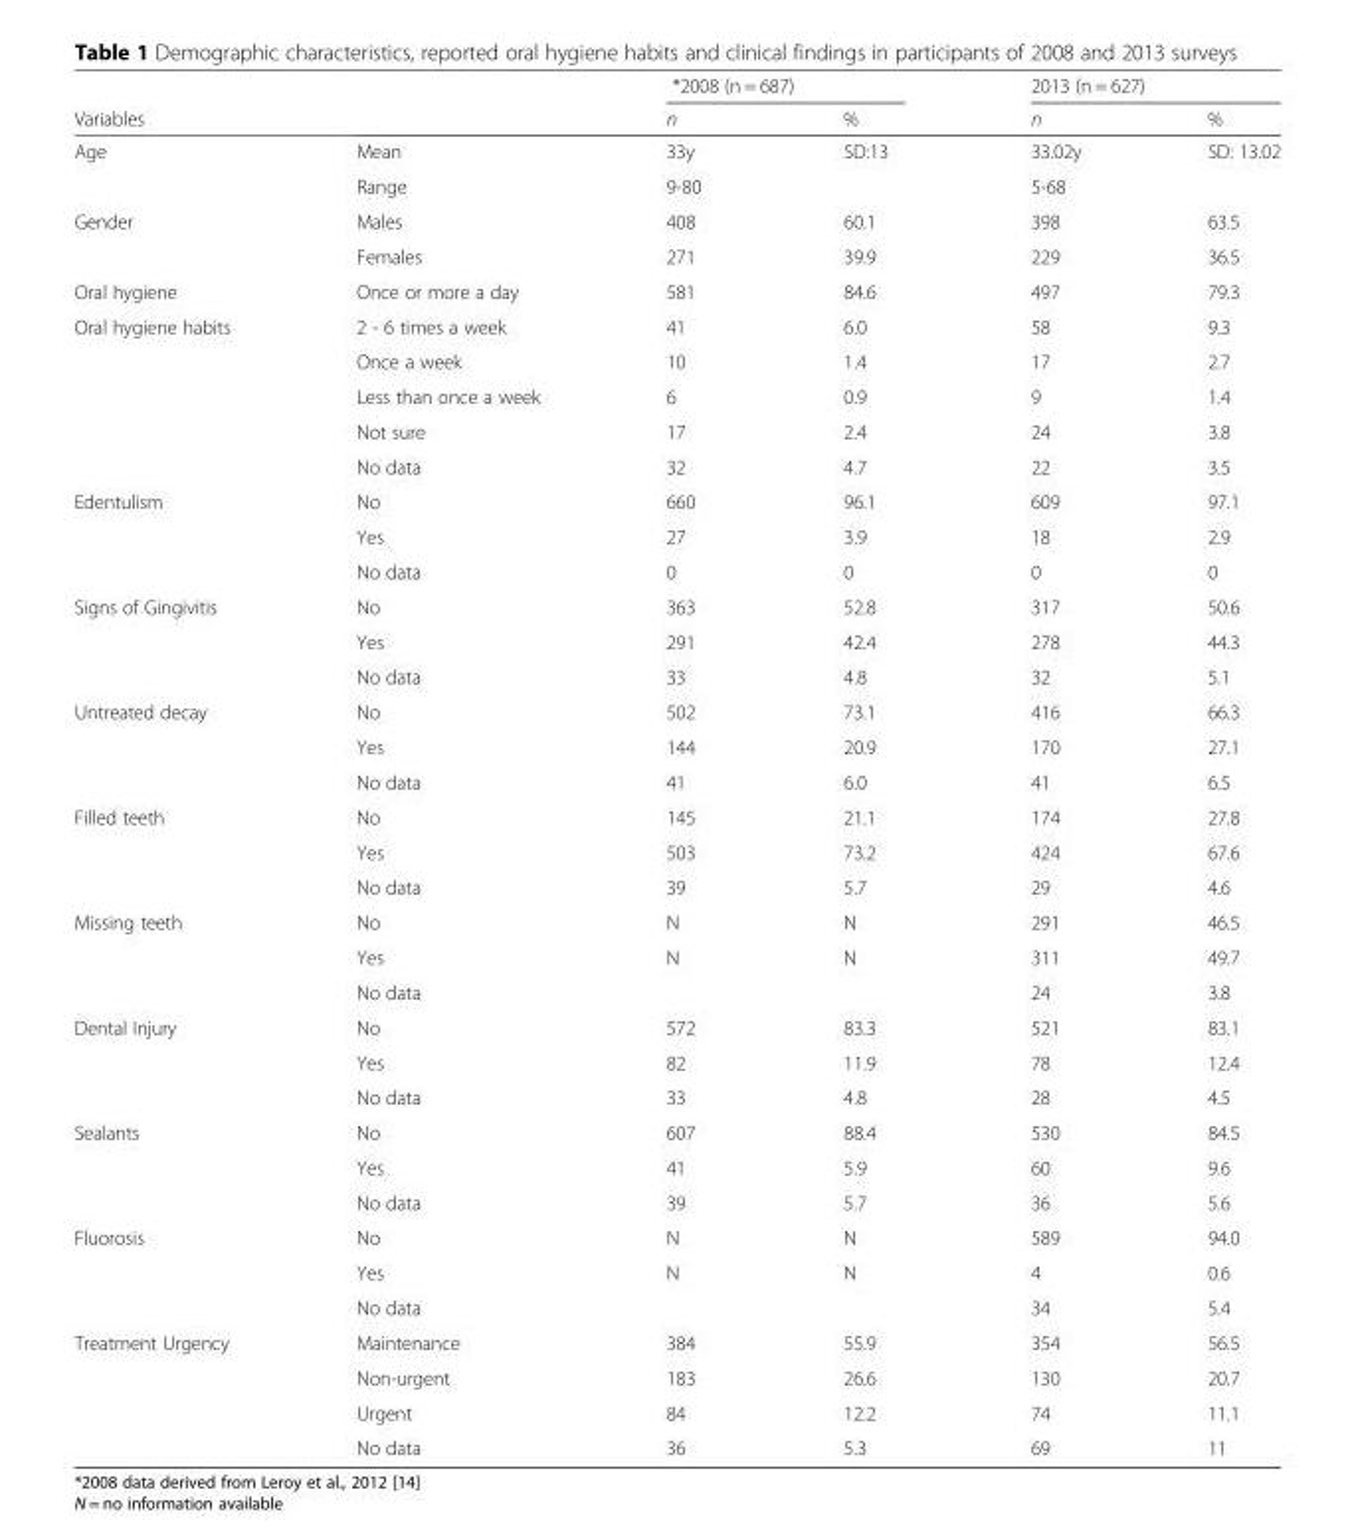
<table><thead><tr><td rowspan="2">Variables</td><td rowspan="2"></td><td colspan="2">*2008 (n = 687)</td><td colspan="2">2013 (n = 627)</td></tr><tr><td>n</td><td>%</td><td>n</td><td>%</td></tr></thead><tbody><tr><td rowspan="2">Age</td><td>Mean</td><td>33y</td><td>SD:13</td><td>33.02y</td><td>SD: 13.02</td></tr><tr><td>Range</td><td>9-80</td><td></td><td>5-68</td><td></td></tr><tr><td rowspan="2">Gender</td><td>Males</td><td>408</td><td>60.1</td><td>398</td><td>63.5</td></tr><tr><td>Females</td><td>271</td><td>39.9</td><td>229</td><td>36.5</td></tr><tr><td>Oral hygiene</td><td>Once or more a day</td><td>581</td><td>84.6</td><td>497</td><td>79.3</td></tr><tr><td rowspan="5">Oral hygiene habits</td><td>2 - 6 times a week</td><td>41</td><td>6.0</td><td>58</td><td>9.3</td></tr><tr><td>Once a week</td><td>10</td><td>1.4</td><td>17</td><td>2.7</td></tr><tr><td>Less than once a week</td><td>6</td><td>0.9</td><td>9</td><td>1.4</td></tr><tr><td>Not sure</td><td>17</td><td>2.4</td><td>24</td><td>3.8</td></tr><tr><td>No data</td><td>32</td><td>4.7</td><td>22</td><td>3.5</td></tr><tr><td rowspan="3">Edentulism</td><td>No</td><td>660</td><td>96.1</td><td>609</td><td>97.1</td></tr><tr><td>Yes</td><td>27</td><td>3.9</td><td>18</td><td>2.9</td></tr><tr><td>No data</td><td>0</td><td>0</td><td>0</td><td>0</td></tr><tr><td rowspan="3">Signs of Gingivitis</td><td>No</td><td>363</td><td>52.8</td><td>317</td><td>50.6</td></tr><tr><td>Yes</td><td>291</td><td>42.4</td><td>278</td><td>44.3</td></tr><tr><td>No data</td><td>33</td><td>4.8</td><td>32</td><td>5.1</td></tr><tr><td rowspan="3">Untreated decay</td><td>No</td><td>502</td><td>73.1</td><td>416</td><td>66.3</td></tr><tr><td>Yes</td><td>144</td><td>20.9</td><td>170</td><td>27.1</td></tr><tr><td>No data</td><td>41</td><td>6.0</td><td>41</td><td>6.5</td></tr><tr><td rowspan="3">Filled teeth</td><td>No</td><td>145</td><td>21.1</td><td>174</td><td>27.8</td></tr><tr><td>Yes</td><td>503</td><td>73.2</td><td>424</td><td>67.6</td></tr><tr><td>No data</td><td>39</td><td>5.7</td><td>29</td><td>4.6</td></tr><tr><td rowspan="3">Missing teeth</td><td>No</td><td>N</td><td>N</td><td>291</td><td>46.5</td></tr><tr><td>Yes</td><td>N</td><td>N</td><td>311</td><td>49.7</td></tr><tr><td>No data</td><td></td><td></td><td>24</td><td>3.8</td></tr><tr><td rowspan="3">Dental Injury</td><td>No</td><td>572</td><td>83.3</td><td>521</td><td>83.1</td></tr><tr><td>Yes</td><td>82</td><td>11.9</td><td>78</td><td>12.4</td></tr><tr><td>No data</td><td>33</td><td>4.8</td><td>28</td><td>4.5</td></tr><tr><td rowspan="3">Sealants</td><td>No</td><td>607</td><td>88.4</td><td>530</td><td>84.5</td></tr><tr><td>Yes</td><td>41</td><td>5.9</td><td>60</td><td>9.6</td></tr><tr><td>No data</td><td>39</td><td>5.7</td><td>36</td><td>5.6</td></tr><tr><td rowspan="3">Fluorosis</td><td>No</td><td>N</td><td>N</td><td>589</td><td>94.0</td></tr><tr><td>Yes</td><td>N</td><td>N</td><td>4</td><td>0.6</td></tr><tr><td>No data</td><td></td><td></td><td>34</td><td>5.4</td></tr><tr><td rowspan="4">Treatment Urgency</td><td>Maintenance</td><td>384</td><td>55.9</td><td>354</td><td>56.5</td></tr><tr><td>Non-urgent</td><td>183</td><td>26.6</td><td>130</td><td>20.7</td></tr><tr><td>Urgent</td><td>84</td><td>12.2</td><td>74</td><td>11.1</td></tr><tr><td>No data</td><td>36</td><td>5.3</td><td>69</td><td>11</td></tr></tbody></table>